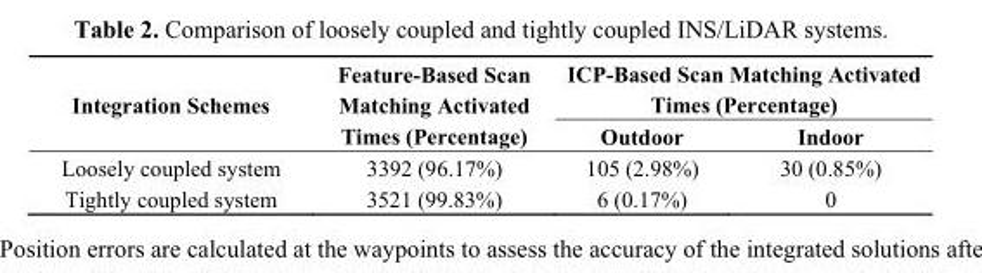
<table><thead><tr><td rowspan="2">Integration Schemes</td><td rowspan="2">Feature-Based Scan Matching Activated Times (Percentage)</td><td colspan="2">ICP-Based Scan Matching Activated Times (Percentage)</td></tr><tr><td>Outdoor</td><td>Indoor</td></tr></thead><tbody><tr><td>Loosely coupled system</td><td>3392 (96.17%)</td><td>105 (2.98%)</td><td>30 (0.85%)</td></tr><tr><td>Tightly coupled system</td><td>3521 (99.83%)</td><td>6 (0.17%)</td><td>0</td></tr></tbody></table>